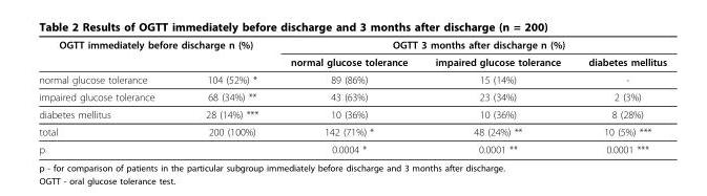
<table><thead><tr><td colspan="2">OGTT immediately before discharge n (%)</td><td colspan="3">OGTT 3 months after discharge n (%)</td></tr><tr><td></td><td></td><td>normal glucose tolerance</td><td>impaired glucose tolerance</td><td>diabetes mellitus</td></tr></thead><tbody><tr><td>normal glucose tolerance</td><td>104 (52%) *</td><td>89 (86%)</td><td>15 (14%)</td><td>-</td></tr><tr><td>impaired glucose tolerance</td><td>68 (34%) **</td><td>43 (63%)</td><td>23 (34%)</td><td>2 (3%)</td></tr><tr><td>diabetes mellitus</td><td>28 (14%) ***</td><td>10 (36%)</td><td>10 (36%)</td><td>8 (28%)</td></tr><tr><td>total</td><td>200 (100%)</td><td>142 (71%) *</td><td>48 (24%) **</td><td>10 (5%) ***</td></tr><tr><td>p</td><td></td><td>0.0004 *</td><td>0.0001 **</td><td>0.0001 ***</td></tr></tbody></table>